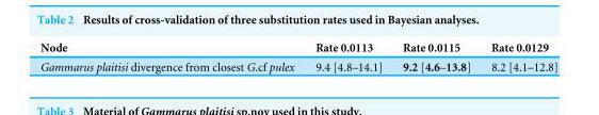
<table><thead><tr><td>Node</td><td>Rate 0.0113</td><td>Rate 0.0115</td><td>Rate 0.0129</td></tr></thead><tbody><tr><td>Gammarus plaitisi divergence from closest G.cf pulex</td><td>9.4 [4.8–14.1]</td><td>9.2 [4.6–13.8]</td><td>8.2 [4.1–12.8]</td></tr></tbody></table>